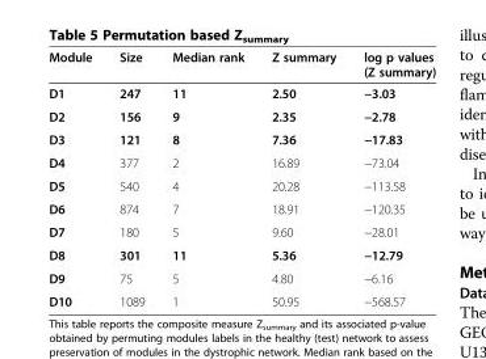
<table><thead><tr><td>Module</td><td>Size</td><td>Median rank</td><td>Z summary</td><td>log p values (Z summary)</td></tr></thead><tbody><tr><td>D1</td><td>247</td><td>11</td><td>2.50</td><td>−3.03</td></tr><tr><td>D2</td><td>156</td><td>9</td><td>2.35</td><td>−2.78</td></tr><tr><td>D3</td><td>121</td><td>8</td><td>7.36</td><td>−17.83</td></tr><tr><td>D4</td><td>377</td><td>2</td><td>16.89</td><td>−73.04</td></tr><tr><td>D5</td><td>540</td><td>4</td><td>20.28</td><td>−113.58</td></tr><tr><td>D6</td><td>874</td><td>7</td><td>18.91</td><td>−120.35</td></tr><tr><td>D7</td><td>180</td><td>5</td><td>9.60</td><td>−28.01</td></tr><tr><td>D8</td><td>301</td><td>11</td><td>5.36</td><td>−12.79</td></tr><tr><td>D9</td><td>75</td><td>5</td><td>4.80</td><td>−6.16</td></tr><tr><td>D10</td><td>1089</td><td>1</td><td>50.95</td><td>−568.57</td></tr></tbody></table>